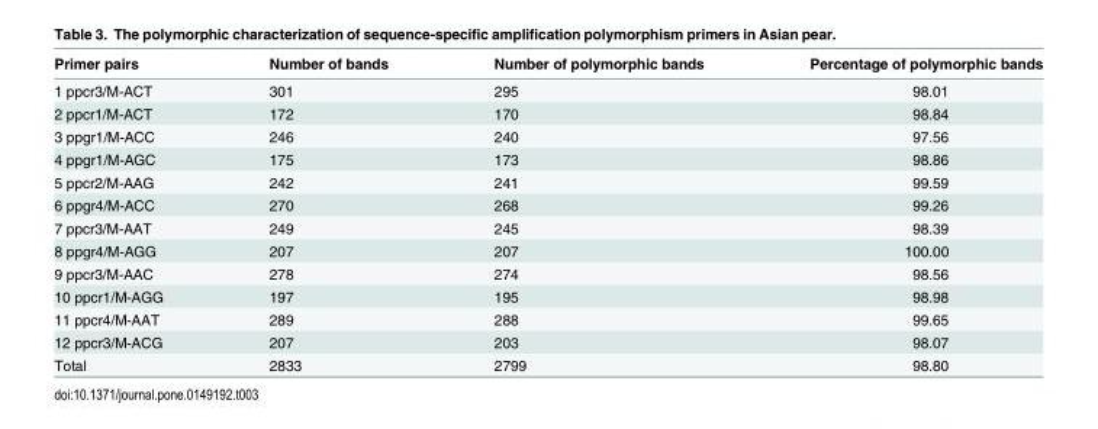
<table><thead><tr><td>Primer pairs</td><td>Number of bands</td><td>Number of polymorphic bands</td><td>Percentage of polymorphic bands</td></tr></thead><tbody><tr><td>1 ppcr3/M-ACT</td><td>301</td><td>295</td><td>98.01</td></tr><tr><td>2 ppcr1/M-ACT</td><td>172</td><td>170</td><td>98.84</td></tr><tr><td>3 ppgr1/M-ACC</td><td>246</td><td>240</td><td>97.56</td></tr><tr><td>4 ppgr1/M-AGC</td><td>175</td><td>173</td><td>98.86</td></tr><tr><td>5 ppcr2/M-AAG</td><td>242</td><td>241</td><td>99.59</td></tr><tr><td>6 ppgr4/M-ACC</td><td>270</td><td>268</td><td>99.26</td></tr><tr><td>7 ppcr3/M-AAT</td><td>249</td><td>245</td><td>98.39</td></tr><tr><td>8 ppgr4/M-AGG</td><td>207</td><td>207</td><td>100.00</td></tr><tr><td>9 ppcr3/M-AAC</td><td>278</td><td>274</td><td>98.56</td></tr><tr><td>10 ppcr1/M-AGG</td><td>197</td><td>195</td><td>98.98</td></tr><tr><td>11 ppcr4/M-AAT</td><td>289</td><td>288</td><td>99.65</td></tr><tr><td>12 ppcr3/M-ACG</td><td>207</td><td>203</td><td>98.07</td></tr><tr><td>Total</td><td>2833</td><td>2799</td><td>98.80</td></tr></tbody></table>